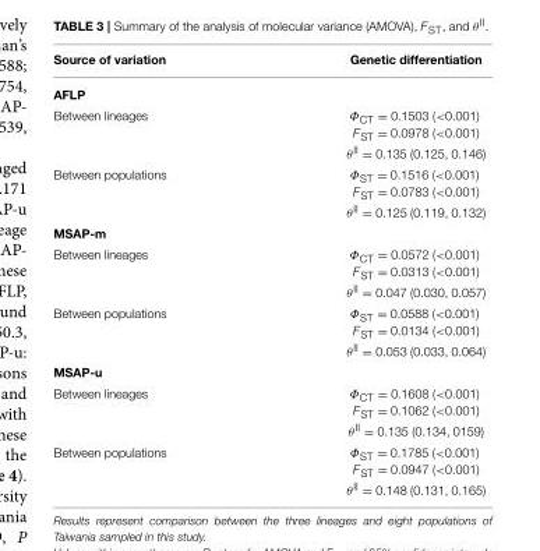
<table><thead><tr><td>Source of variation</td><td>Genetic differentiation</td></tr></thead><tbody><tr><td colspan="2">AFLP</td></tr><tr><td rowspan="2">Between lineages</td><td>Φ<sub>CT</sub> = 0.1503 (&lt;0.001) F<sub>ST</sub> = 0.0978 (&lt;0.001)</td></tr><tr><td>θ<sup>II</sup> = 0.135 (0.125, 0.146)</td></tr><tr><td rowspan="2">Between populations</td><td>Φ<sub>ST</sub> = 0.1516 (&lt;0.001) F<sub>ST</sub> = 0.0783 (&lt;0.001)</td></tr><tr><td>θ<sup>II</sup> = 0.125 (0.119, 0.132)</td></tr><tr><td colspan="2">MSAP-m</td></tr><tr><td rowspan="2">Between lineages</td><td>Φ<sub>CT</sub> = 0.0572 (&lt;0.001) F<sub>ST</sub> = 0.0313 (&lt;0.001)</td></tr><tr><td>θ<sup>II</sup> = 0.047 (0.030, 0.057)</td></tr><tr><td rowspan="2">Between populations</td><td>Φ<sub>ST</sub> = 0.0588 (&lt;0.001) F<sub>ST</sub> = 0.0134 (&lt;0.001)</td></tr><tr><td>θ<sup>II</sup> = 0.053 (0.033, 0.064)</td></tr><tr><td colspan="2">MSAP-u</td></tr><tr><td rowspan="2">Between lineages</td><td>Φ<sub>CT</sub> = 0.1608 (&lt;0.001) F<sub>ST</sub> = 0.1062 (&lt;0.001)</td></tr><tr><td>θ<sup>II</sup> = 0.135 (0.134, 0159)</td></tr><tr><td rowspan="2">Between populations</td><td>Φ<sub>ST</sub> = 0.1785 (&lt;0.001) F<sub>ST</sub> = 0.0947 (&lt;0.001)</td></tr><tr><td>θ<sup>II</sup> = 0.148 (0.131, 0.165)</td></tr></tbody></table>